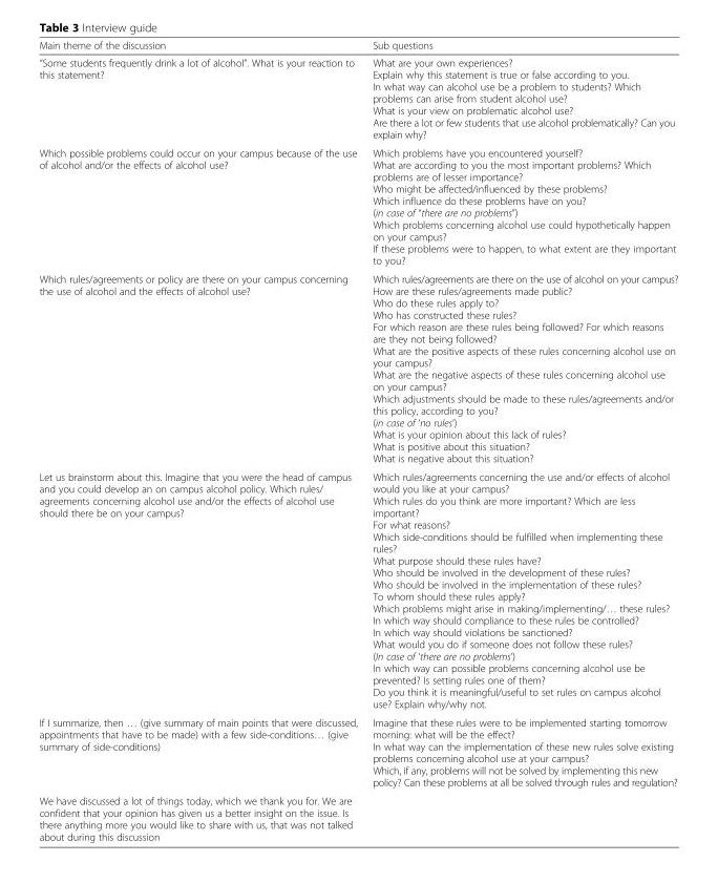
<table><thead><tr><td>Main theme of the discussion</td><td>Sub questions</td></tr></thead><tbody><tr><td>“Some students frequently drink a lot of alcohol”. What is your reaction to this statement?</td><td>What are your own experiences? Explain why this statement is true or false according to you. In what way can alcohol use be a problem to students? Which problems can arise from student alcohol use? What is your view on problematic alcohol use? Are there a lot or few students that use alcohol problematically? Can you explain why?</td></tr><tr><td>Which possible problems could occur on your campus because of the use of alcohol and/or the effects of alcohol use?</td><td>Which problems have you encountered yourself? What are according to you the most important problems? Which problems are of lesser importance? Who might be affected/influenced by these problems? Which influence do these problems have on you? (in case of “there are no problems”) Which problems concerning alcohol use could hypothetically happen on your campus? If these problems were to happen, to what extent are they important to you?</td></tr><tr><td>Which rules/agreements or policy are there on your campus concerning the use of alcohol and the effects of alcohol use?</td><td>Which rules/agreements are there on the use of alcohol on your campus? How are these rules/agreements made public? Who do these rules apply to? Who has constructed these rules? For which reason are these rules being followed? For which reasons are they not being followed? What are the positive aspects of these rules concerning alcohol use on your campus? What are the negative aspects of these rules concerning alcohol use on your campus? Which adjustments should be made to these rules/agreements and/or this policy, according to you? (in case of ‘no rules’) What is your opinion about this lack of rules? What is positive about this situation? What is negative about this situation?</td></tr><tr><td>Let us brainstorm about this. Imagine that you were the head of campus and you could develop an on campus alcohol policy. Which rules/ agreements concerning alcohol use and/or the effects of alcohol use should there be on your campus?</td><td>Which rules/agreements concerning the use and/or effects of alcohol would you like at your campus? Which rules do you think are more important? Which are less important? For what reasons? Which side-conditions should be fulfilled when implementing these rules? What purpose should these rules have? Who should be involved in the development of these rules? Who should be involved in the implementation of these rules? To whom should these rules apply? Which problems might arise in making/implementing/… these rules? In which way should compliance to these rules be controlled? In which way should violations be sanctioned? What would you do if someone does not follow these rules? (In case of ‘there are no problems’) In which way can possible problems concerning alcohol use be prevented? Is setting rules one of them? Do you think it is meaningful/useful to set rules on campus alcohol use? Explain why/why not.</td></tr><tr><td>If I summarize, then … (give summary of main points that were discussed, appointments that have to be made) with a few side-conditions… (give summary of side-conditions)</td><td>Imagine that these rules were to be implemented starting tomorrow morning: what will be the effect? In what way can the implementation of these new rules solve existing problems concerning alcohol use at your campus? Which, if any, problems will not be solved by implementing this new policy? Can these problems at all be solved through rules and regulation?</td></tr><tr><td>We have discussed a lot of things today, which we thank you for. We are confident that your opinion has given us a better insight on the issue. Is there anything more you would like to share with us, that was not talked about during this discussion</td><td></td></tr></tbody></table>